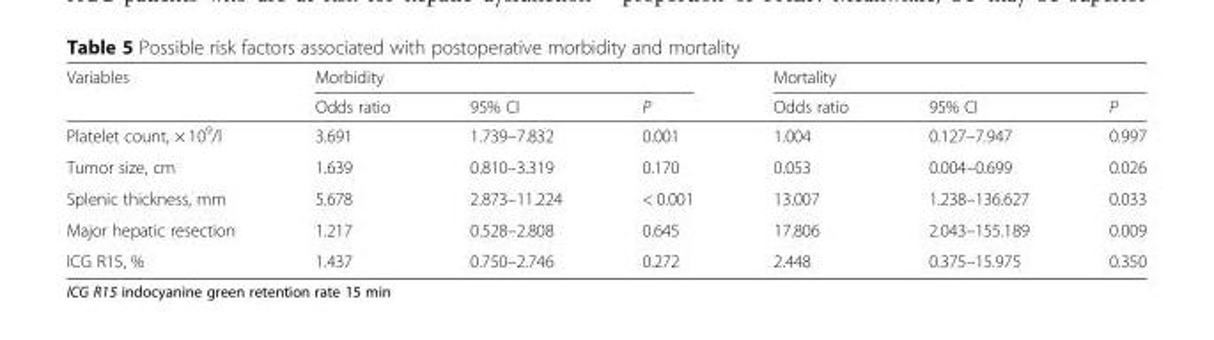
<table><thead><tr><td rowspan="2">Variables</td><td colspan="3">Morbidity</td><td colspan="3">Mortality</td></tr><tr><td>Odds ratio</td><td>95% CI</td><td>P</td><td>Odds ratio</td><td>95% CI</td><td>P</td></tr></thead><tbody><tr><td>Platelet count, × 10<sup>9</sup>/l</td><td>3.691</td><td>1.739–7.832</td><td>0.001</td><td>1.004</td><td>0.127–7.947</td><td>0.997</td></tr><tr><td>Tumor size, cm</td><td>1.639</td><td>0.810–3.319</td><td>0.170</td><td>0.053</td><td>0.004–0.699</td><td>0.026</td></tr><tr><td>Splenic thickness, mm</td><td>5.678</td><td>2.873–11.224</td><td>&lt; 0.001</td><td>13.007</td><td>1.238–136.627</td><td>0.033</td></tr><tr><td>Major hepatic resection</td><td>1.217</td><td>0.528–2.808</td><td>0.645</td><td>17.806</td><td>2.043–155.189</td><td>0.009</td></tr><tr><td>ICG R15, %</td><td>1.437</td><td>0.750–2.746</td><td>0.272</td><td>2.448</td><td>0.375–15.975</td><td>0.350</td></tr></tbody></table>